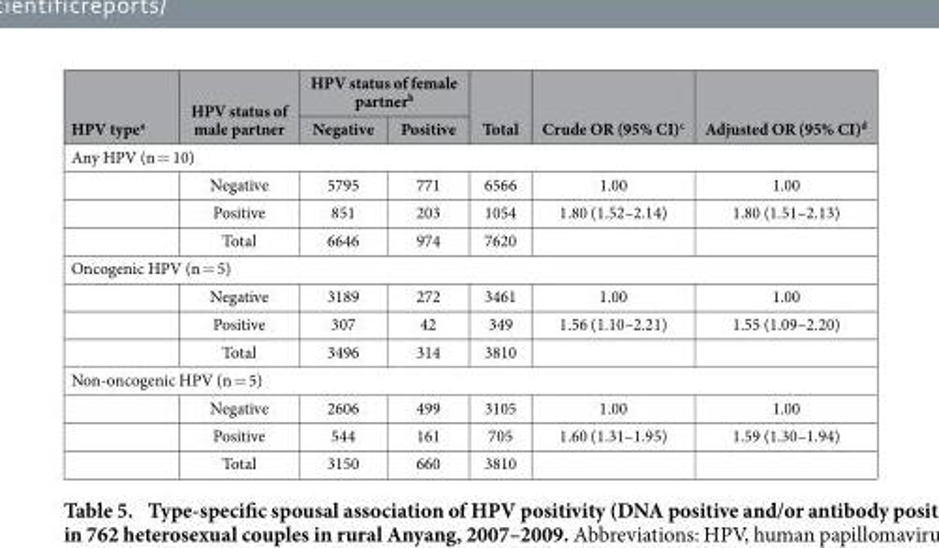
<table><thead><tr><td rowspan="2">HPV type<sup>a</sup></td><td rowspan="2">HPV status of male partner</td><td colspan="2">HPV status of female partner<sup>b</sup></td><td rowspan="2">Total</td><td rowspan="2">Crude OR (95% CI)<sup>c</sup></td><td rowspan="2">Adjusted OR (95% CI)<sup>d</sup></td></tr><tr><td>Negative</td><td>Positive</td></tr></thead><tbody><tr><td colspan="7">Any HPV (n = 10)</td></tr><tr><td></td><td>Negative</td><td>5795</td><td>771</td><td>6566</td><td>1.00</td><td>1.00</td></tr><tr><td></td><td>Positive</td><td>851</td><td>203</td><td>1054</td><td>1.80 (1.52–2.14)</td><td>1.80 (1.51–2.13)</td></tr><tr><td></td><td>Total</td><td>6646</td><td>974</td><td>7620</td><td></td><td></td></tr><tr><td colspan="7">Oncogenic HPV (n = 5)</td></tr><tr><td></td><td>Negative</td><td>3189</td><td>272</td><td>3461</td><td>1.00</td><td>1.00</td></tr><tr><td></td><td>Positive</td><td>307</td><td>42</td><td>349</td><td>1.56 (1.10–2.21)</td><td>1.55 (1.09–2.20)</td></tr><tr><td></td><td>Total</td><td>3496</td><td>314</td><td>3810</td><td></td><td></td></tr><tr><td colspan="7">Non-oncogenic HPV (n = 5)</td></tr><tr><td></td><td>Negative</td><td>2606</td><td>499</td><td>3105</td><td>1.00</td><td>1.00</td></tr><tr><td></td><td>Positive</td><td>544</td><td>161</td><td>705</td><td>1.60 (1.31–1.95)</td><td>1.59 (1.30–1.94)</td></tr><tr><td></td><td>Total</td><td>3150</td><td>660</td><td>3810</td><td></td><td></td></tr></tbody></table>